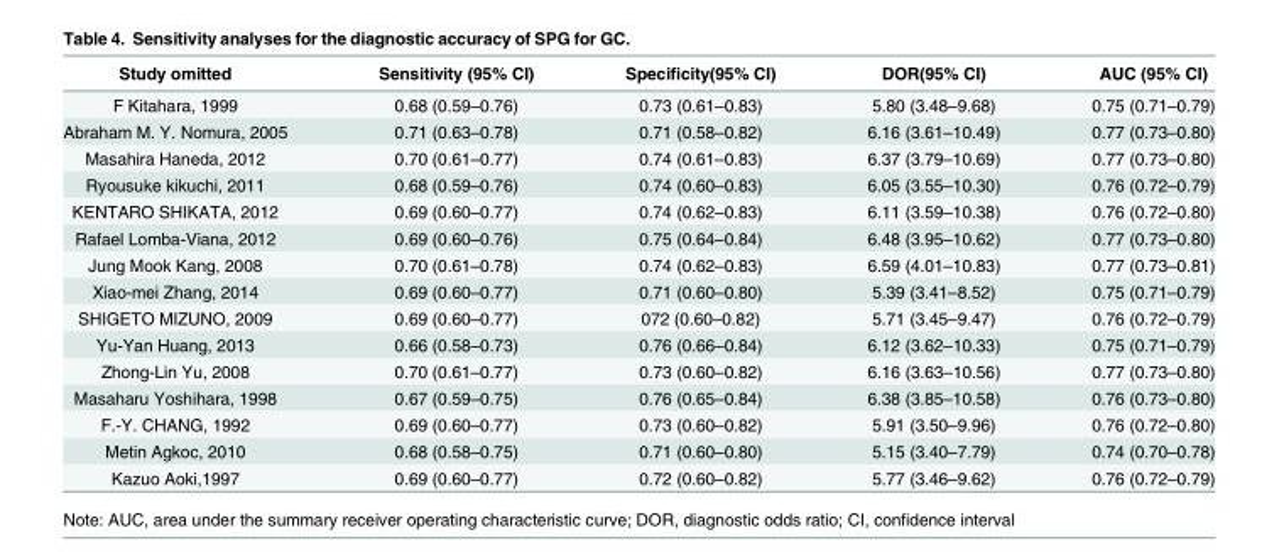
<table><thead><tr><td>Study omitted</td><td>Sensitivity (95% CI)</td><td>Specificity(95% CI)</td><td>DOR(95% CI)</td><td>AUC (95% CI)</td></tr></thead><tbody><tr><td>F Kitahara, 1999</td><td>0.68 (0.59–0.76)</td><td>0.73 (0.61–0.83)</td><td>5.80 (3.48–9.68)</td><td>0.75 (0.71–0.79)</td></tr><tr><td>Abraham M. Y. Nomura, 2005</td><td>0.71 (0.63–0.78)</td><td>0.71 (0.58–0.82)</td><td>6.16 (3.61–10.49)</td><td>0.77 (0.73–0.80)</td></tr><tr><td>Masahira Haneda, 2012</td><td>0.70 (0.61–0.77)</td><td>0.74 (0.61–0.83)</td><td>6.37 (3.79–10.69)</td><td>0.77 (0.73–0.80)</td></tr><tr><td>Ryousuke kikuchi, 2011</td><td>0.68 (0.59–0.76)</td><td>0.74 (0.60–0.83)</td><td>6.05 (3.55–10.30)</td><td>0.76 (0.72–0.79)</td></tr><tr><td>KENTARO SHIKATA, 2012</td><td>0.69 (0.60–0.77)</td><td>0.74 (0.62–0.83)</td><td>6.11 (3.59–10.38)</td><td>0.76 (0.72–0.80)</td></tr><tr><td>Rafael Lomba-Viana, 2012</td><td>0.69 (0.60–0.76)</td><td>0.75 (0.64–0.84)</td><td>6.48 (3.95–10.62)</td><td>0.77 (0.73–0.80)</td></tr><tr><td>Jung Mook Kang, 2008</td><td>0.70 (0.61–0.78)</td><td>0.74 (0.62–0.83)</td><td>6.59 (4.01–10.83)</td><td>0.77 (0.73–0.81)</td></tr><tr><td>Xiao-mei Zhang, 2014</td><td>0.69 (0.60–0.77)</td><td>0.71 (0.60–0.80)</td><td>5.39 (3.41–8.52)</td><td>0.75 (0.71–0.79)</td></tr><tr><td>SHIGETO MIZUNO, 2009</td><td>0.69 (0.60–0.77)</td><td>072 (0.60–0.82)</td><td>5.71 (3.45–9.47)</td><td>0.76 (0.72–0.79)</td></tr><tr><td>Yu-Yan Huang, 2013</td><td>0.66 (0.58–0.73)</td><td>0.76 (0.66–0.84)</td><td>6.12 (3.62–10.33)</td><td>0.75 (0.71–0.79)</td></tr><tr><td>Zhong-Lin Yu, 2008</td><td>0.70 (0.61–0.77)</td><td>0.73 (0.60–0.82)</td><td>6.16 (3.63–10.56)</td><td>0.77 (0.73–0.80)</td></tr><tr><td>Masaharu Yoshihara, 1998</td><td>0.67 (0.59–0.75)</td><td>0.76 (0.65–0.84)</td><td>6.38 (3.85–10.58)</td><td>0.76 (0.73–0.80)</td></tr><tr><td>F.-Y. CHANG, 1992</td><td>0.69 (0.60–0.77)</td><td>0.73 (0.60–0.82)</td><td>5.91 (3.50–9.96)</td><td>0.76 (0.72–0.80)</td></tr><tr><td>Metin Agkoc, 2010</td><td>0.68 (0.58–0.75)</td><td>0.71 (0.60–0.80)</td><td>5.15 (3.40–7.79)</td><td>0.74 (0.70–0.78)</td></tr><tr><td>Kazuo Aoki,1997</td><td>0.69 (0.60–0.77)</td><td>0.72 (0.60–0.82)</td><td>5.77 (3.46–9.62)</td><td>0.76 (0.72–0.79)</td></tr></tbody></table>